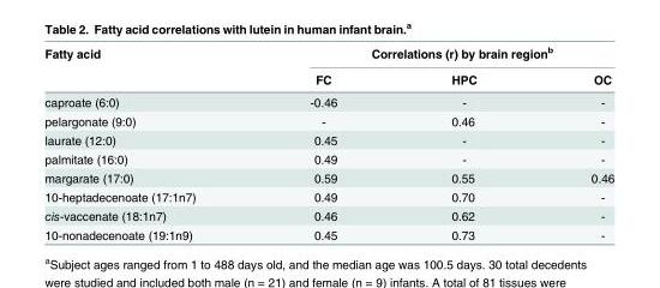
<table><thead><tr><td rowspan="2">Fatty acid</td><td colspan="3">Correlations (r) by brain region<sup>b</sup></td></tr><tr><td>FC</td><td>HPC</td><td>OC</td></tr></thead><tbody><tr><td>caproate (6:0)</td><td>-0.46</td><td>-</td><td>-</td></tr><tr><td>pelargonate (9:0)</td><td>-</td><td>0.46</td><td>-</td></tr><tr><td>laurate (12:0)</td><td>0.45</td><td>-</td><td>-</td></tr><tr><td>palmitate (16:0)</td><td>0.49</td><td>-</td><td>-</td></tr><tr><td>margarate (17:0)</td><td>0.59</td><td>0.55</td><td>0.46</td></tr><tr><td>10-heptadecenoate (17:1n7)</td><td>0.49</td><td>0.70</td><td>-</td></tr><tr><td>cis-vaccenate (18:1n7)</td><td>0.46</td><td>0.62</td><td>-</td></tr><tr><td>10-nonadecenoate (19:1n9)</td><td>0.45</td><td>0.73</td><td>-</td></tr></tbody></table>